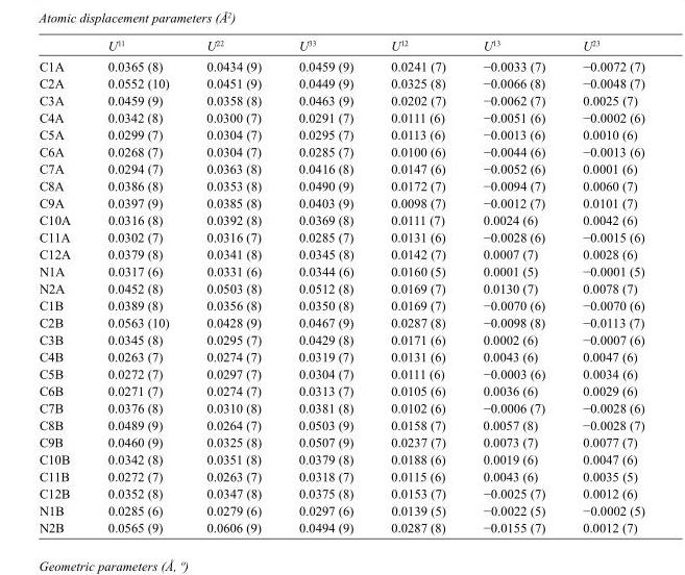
<table><thead><tr><td></td><td>U<sup>11</sup></td><td>U<sup>22</sup></td><td>U<sup>33</sup></td><td>U<sup>12</sup></td><td>U<sup>13</sup></td><td>U<sup>23</sup></td></tr></thead><tbody><tr><td>C1A</td><td>0.0365 (8)</td><td>0.0434 (9)</td><td>0.0459 (9)</td><td>0.0241 (7)</td><td>−0.0033 (7)</td><td>−0.0072 (7)</td></tr><tr><td>C2A</td><td>0.0552 (10)</td><td>0.0451 (9)</td><td>0.0449 (9)</td><td>0.0325 (8)</td><td>−0.0066 (8)</td><td>−0.0048 (7)</td></tr><tr><td>C3A</td><td>0.0459 (9)</td><td>0.0358 (8)</td><td>0.0463 (9)</td><td>0.0202 (7)</td><td>−0.0062 (7)</td><td>0.0025 (7)</td></tr><tr><td>C4A</td><td>0.0342 (8)</td><td>0.0300 (7)</td><td>0.0291 (7)</td><td>0.0111 (6)</td><td>−0.0051 (6)</td><td>−0.0002 (6)</td></tr><tr><td>C5A</td><td>0.0299 (7)</td><td>0.0304 (7)</td><td>0.0295 (7)</td><td>0.0113 (6)</td><td>−0.0013 (6)</td><td>0.0010 (6)</td></tr><tr><td>C6A</td><td>0.0268 (7)</td><td>0.0304 (7)</td><td>0.0285 (7)</td><td>0.0100 (6)</td><td>−0.0044 (6)</td><td>−0.0013 (6)</td></tr><tr><td>C7A</td><td>0.0294 (7)</td><td>0.0363 (8)</td><td>0.0416 (8)</td><td>0.0147 (6)</td><td>−0.0052 (6)</td><td>0.0001 (6)</td></tr><tr><td>C8A</td><td>0.0386 (8)</td><td>0.0353 (8)</td><td>0.0490 (9)</td><td>0.0172 (7)</td><td>−0.0094 (7)</td><td>0.0060 (7)</td></tr><tr><td>C9A</td><td>0.0397 (9)</td><td>0.0385 (8)</td><td>0.0403 (9)</td><td>0.0098 (7)</td><td>−0.0012 (7)</td><td>0.0101 (7)</td></tr><tr><td>C10A</td><td>0.0316 (8)</td><td>0.0392 (8)</td><td>0.0369 (8)</td><td>0.0111 (7)</td><td>0.0024 (6)</td><td>0.0042 (6)</td></tr><tr><td>C11A</td><td>0.0302 (7)</td><td>0.0316 (7)</td><td>0.0285 (7)</td><td>0.0131 (6)</td><td>−0.0028 (6)</td><td>−0.0015 (6)</td></tr><tr><td>C12A</td><td>0.0379 (8)</td><td>0.0341 (8)</td><td>0.0345 (8)</td><td>0.0142 (7)</td><td>0.0007 (7)</td><td>0.0028 (6)</td></tr><tr><td>N1A</td><td>0.0317 (6)</td><td>0.0331 (6)</td><td>0.0344 (6)</td><td>0.0160 (5)</td><td>0.0001 (5)</td><td>−0.0001 (5)</td></tr><tr><td>N2A</td><td>0.0452 (8)</td><td>0.0503 (8)</td><td>0.0512 (8)</td><td>0.0169 (7)</td><td>0.0130 (7)</td><td>0.0078 (7)</td></tr><tr><td>C1B</td><td>0.0389 (8)</td><td>0.0356 (8)</td><td>0.0350 (8)</td><td>0.0169 (7)</td><td>−0.0070 (6)</td><td>−0.0070 (6)</td></tr><tr><td>C2B</td><td>0.0563 (10)</td><td>0.0428 (9)</td><td>0.0467 (9)</td><td>0.0287 (8)</td><td>−0.0098 (8)</td><td>−0.0113 (7)</td></tr><tr><td>C3B</td><td>0.0345 (8)</td><td>0.0295 (7)</td><td>0.0429 (8)</td><td>0.0171 (6)</td><td>0.0002 (6)</td><td>−0.0007 (6)</td></tr><tr><td>C4B</td><td>0.0263 (7)</td><td>0.0274 (7)</td><td>0.0319 (7)</td><td>0.0131 (6)</td><td>0.0043 (6)</td><td>0.0047 (6)</td></tr><tr><td>C5B</td><td>0.0272 (7)</td><td>0.0297 (7)</td><td>0.0304 (7)</td><td>0.0111 (6)</td><td>−0.0003 (6)</td><td>0.0034 (6)</td></tr><tr><td>C6B</td><td>0.0271 (7)</td><td>0.0274 (7)</td><td>0.0313 (7)</td><td>0.0105 (6)</td><td>0.0036 (6)</td><td>0.0029 (6)</td></tr><tr><td>C7B</td><td>0.0376 (8)</td><td>0.0310 (8)</td><td>0.0381 (8)</td><td>0.0102 (6)</td><td>−0.0006 (7)</td><td>−0.0028 (6)</td></tr><tr><td>C8B</td><td>0.0489 (9)</td><td>0.0264 (7)</td><td>0.0503 (9)</td><td>0.0158 (7)</td><td>0.0057 (8)</td><td>−0.0028 (7)</td></tr><tr><td>C9B</td><td>0.0460 (9)</td><td>0.0325 (8)</td><td>0.0507 (9)</td><td>0.0237 (7)</td><td>0.0073 (7)</td><td>0.0077 (7)</td></tr><tr><td>C10B</td><td>0.0342 (8)</td><td>0.0351 (8)</td><td>0.0379 (8)</td><td>0.0188 (6)</td><td>0.0019 (6)</td><td>0.0047 (6)</td></tr><tr><td>C11B</td><td>0.0272 (7)</td><td>0.0263 (7)</td><td>0.0318 (7)</td><td>0.0115 (6)</td><td>0.0043 (6)</td><td>0.0035 (5)</td></tr><tr><td>C12B</td><td>0.0352 (8)</td><td>0.0347 (8)</td><td>0.0375 (8)</td><td>0.0153 (7)</td><td>−0.0025 (7)</td><td>0.0012 (6)</td></tr><tr><td>N1B</td><td>0.0285 (6)</td><td>0.0279 (6)</td><td>0.0297 (6)</td><td>0.0139 (5)</td><td>−0.0022 (5)</td><td>−0.0002 (5)</td></tr><tr><td>N2B</td><td>0.0565 (9)</td><td>0.0606 (9)</td><td>0.0494 (9)</td><td>0.0287 (8)</td><td>−0.0155 (7)</td><td>0.0012 (7)</td></tr></tbody></table>